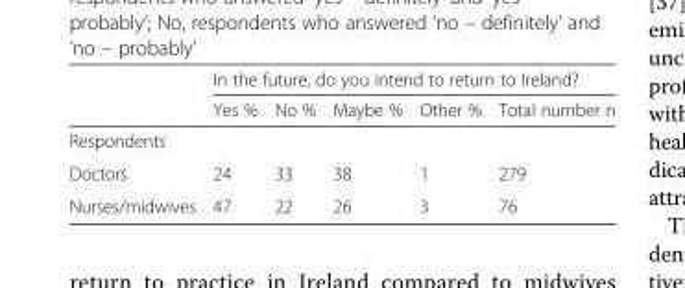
<table><thead><tr><td rowspan="2"></td><td colspan="5">In the future, do you intend to return to Ireland?</td></tr><tr><td>Yes %</td><td>No %</td><td>Maybe %</td><td>Other %</td><td>Total number n</td></tr></thead><tbody><tr><td colspan="6">Respondents</td></tr><tr><td>Doctors</td><td>24</td><td>33</td><td>38</td><td>1</td><td>279</td></tr><tr><td>Nurses/midwives</td><td>47</td><td>22</td><td>26</td><td>3</td><td>76</td></tr></tbody></table>